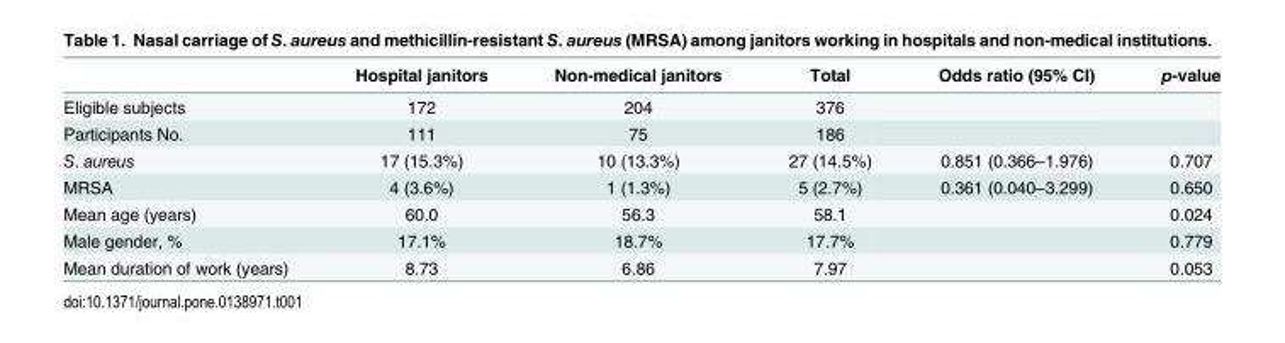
<table><thead><tr><td></td><td>Hospital janitors</td><td>Non-medical janitors</td><td>Total</td><td>Odds ratio (95% CI)</td><td>p-value</td></tr></thead><tbody><tr><td>Eligible subjects</td><td>172</td><td>204</td><td>376</td><td></td><td></td></tr><tr><td>Participants No.</td><td>111</td><td>75</td><td>186</td><td></td><td></td></tr><tr><td>S. aureus</td><td>17 (15.3%)</td><td>10 (13.3%)</td><td>27 (14.5%)</td><td>0.851 (0.366–1.976)</td><td>0.707</td></tr><tr><td>MRSA</td><td>4 (3.6%)</td><td>1 (1.3%)</td><td>5 (2.7%)</td><td>0.361 (0.040–3.299)</td><td>0.650</td></tr><tr><td>Mean age (years)</td><td>60.0</td><td>56.3</td><td>58.1</td><td></td><td>0.024</td></tr><tr><td>Male gender, %</td><td>17.1%</td><td>18.7%</td><td>17.7%</td><td></td><td>0.779</td></tr><tr><td>Mean duration of work (years)</td><td>8.73</td><td>6.86</td><td>7.97</td><td></td><td>0.053</td></tr></tbody></table>